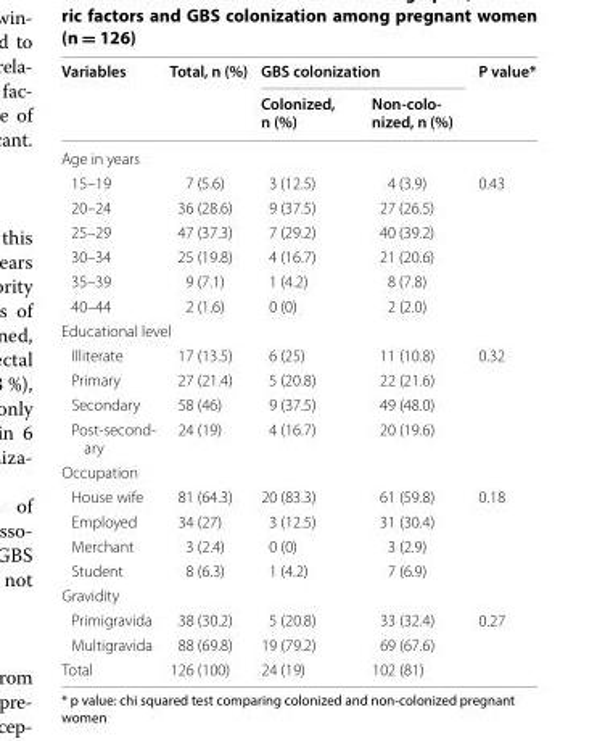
<table><thead><tr><td rowspan="2">Variables</td><td rowspan="2">Total, n (%)</td><td colspan="2">GBS colonization</td><td rowspan="2">P value*</td></tr><tr><td>Colonized, n (%)</td><td>Non‑colo‑ nized, n (%)</td></tr></thead><tbody><tr><td colspan="5">Age in years</td></tr><tr><td>15–19</td><td>7 (5.6)</td><td>3 (12.5)</td><td>4 (3.9)</td><td rowspan="6">0.43</td></tr><tr><td>20–24</td><td>36 (28.6)</td><td>9 (37.5)</td><td>27 (26.5)</td></tr><tr><td>25–29</td><td>47 (37.3)</td><td>7 (29.2)</td><td>40 (39.2)</td></tr><tr><td>30–34</td><td>25 (19.8)</td><td>4 (16.7)</td><td>21 (20.6)</td></tr><tr><td>35–39</td><td>9 (7.1)</td><td>1 (4.2)</td><td>8 (7.8)</td></tr><tr><td>40–44</td><td>2 (1.6)</td><td>0 (0)</td><td>2 (2.0)</td></tr><tr><td colspan="5">Educational level</td></tr><tr><td>Illiterate</td><td>17 (13.5)</td><td>6 (25)</td><td>11 (10.8)</td><td rowspan="4">0.32</td></tr><tr><td>Primary</td><td>27 (21.4)</td><td>5 (20.8)</td><td>22 (21.6)</td></tr><tr><td>Secondary</td><td>58 (46)</td><td>9 (37.5)</td><td>49 (48.0)</td></tr><tr><td>Post-second- ary</td><td>24 (19)</td><td>4 (16.7)</td><td>20 (19.6)</td></tr><tr><td colspan="5">Occupation</td></tr><tr><td>House wife</td><td>81 (64.3)</td><td>20 (83.3)</td><td>61 (59.8)</td><td rowspan="4">0.18</td></tr><tr><td>Employed</td><td>34 (27)</td><td>3 (12.5)</td><td>31 (30.4)</td></tr><tr><td>Merchant</td><td>3 (2.4)</td><td>0 (0)</td><td>3 (2.9)</td></tr><tr><td>Student</td><td>8 (6.3)</td><td>1 (4.2)</td><td>7 (6.9)</td></tr><tr><td colspan="5">Gravidity</td></tr><tr><td>Primigravida</td><td>38 (30.2)</td><td>5 (20.8)</td><td>33 (32.4)</td><td rowspan="3">0.27</td></tr><tr><td>Multigravida</td><td>88 (69.8)</td><td>19 (79.2)</td><td>69 (67.6)</td></tr><tr><td>Total</td><td>126 (100)</td><td>24 (19)</td><td>102 (81)</td></tr></tbody></table>